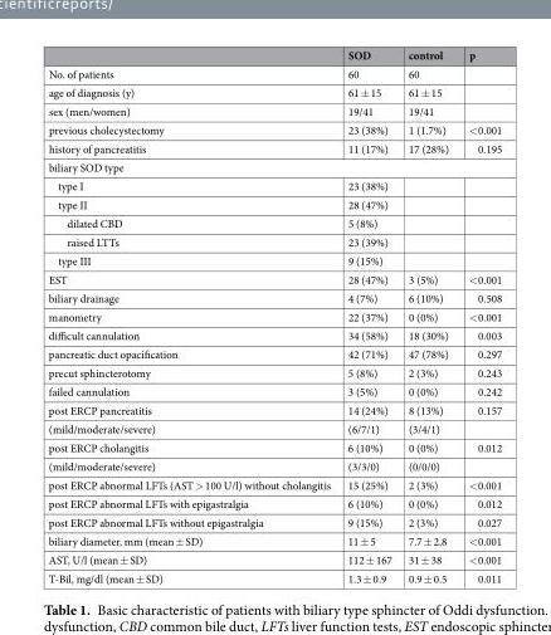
<table><thead><tr><td></td><td>SOD</td><td>control</td><td>p</td></tr></thead><tbody><tr><td>No. of patients</td><td>60</td><td>60</td><td></td></tr><tr><td>age of diagnosis (y)</td><td>61 ± 15</td><td>61 ± 15</td><td></td></tr><tr><td>sex (men/women)</td><td>19/41</td><td>19/41</td><td></td></tr><tr><td>previous cholecystectomy</td><td>23 (38%)</td><td>1 (1.7%)</td><td>&lt;0.001</td></tr><tr><td>history of pancreatitis</td><td>11 (17%)</td><td>17 (28%)</td><td>0.195</td></tr><tr><td colspan="4">biliary SOD type</td></tr><tr><td>type I</td><td>23 (38%)</td><td></td><td></td></tr><tr><td>type II</td><td>28 (47%)</td><td></td><td></td></tr><tr><td>dilated CBD</td><td>5 (8%)</td><td></td><td></td></tr><tr><td>raised LTTs</td><td>23 (39%)</td><td></td><td></td></tr><tr><td>type III</td><td>9 (15%)</td><td></td><td></td></tr><tr><td>EST</td><td>28 (47%)</td><td>3 (5%)</td><td>&lt;0.001</td></tr><tr><td>biliary drainage</td><td>4 (7%)</td><td>6 (10%)</td><td>0.508</td></tr><tr><td>manometry</td><td>22 (37%)</td><td>0 (0%)</td><td>&lt;0.001</td></tr><tr><td>difficult cannulation</td><td>34 (58%)</td><td>18 (30%)</td><td>0.003</td></tr><tr><td>pancreatic duct opacification</td><td>42 (71%)</td><td>47 (78%)</td><td>0.297</td></tr><tr><td>precut sphincterotomy</td><td>5 (8%)</td><td>2 (3%)</td><td>0.243</td></tr><tr><td>failed cannulation</td><td>3 (5%)</td><td>0 (0%)</td><td>0.242</td></tr><tr><td>post ERCP pancreatitis</td><td>14 (24%)</td><td>8 (13%)</td><td>0.157</td></tr><tr><td>(mild/moderate/severe)</td><td>(6/7/1)</td><td>(3/4/1)</td><td></td></tr><tr><td>post ERCP cholangitis</td><td>6 (10%)</td><td>0 (0%)</td><td>0.012</td></tr><tr><td>(mild/moderate/severe)</td><td>(3/3/0)</td><td>(0/0/0)</td><td></td></tr><tr><td>post ERCP abnormal LFTs (AST &gt; 100 U/l) without cholangitis</td><td>15 (25%)</td><td>2 (3%)</td><td>&lt;0.001</td></tr><tr><td>post ERCP abnormal LFTs with epigastralgia</td><td>6 (10%)</td><td>0 (0%)</td><td>0.012</td></tr><tr><td>post ERCP abnormal LFTs without epigastralgia</td><td>9 (15%)</td><td>2 (3%)</td><td>0.027</td></tr><tr><td>biliary diameter, mm (mean ± SD)</td><td>11 ± 5</td><td>7.7 ± 2.8</td><td>&lt;0.001</td></tr><tr><td>AST, U/l (mean ± SD)</td><td>112 ± 167</td><td>31 ± 38</td><td>&lt;0.001</td></tr><tr><td>T-Bil, mg/dl (mean ± SD)</td><td>1.3 ± 0.9</td><td>0.9 ± 0.5</td><td>0.011</td></tr></tbody></table>